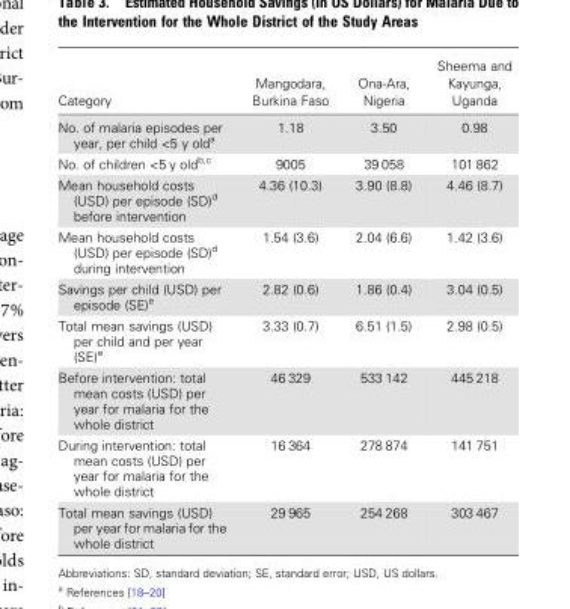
<table><thead><tr><td>Category</td><td>Mangodara, Burkina Faso</td><td>Ona-Ara, Nigeria</td><td>Sheema and Kayunga, Uganda</td></tr></thead><tbody><tr><td>No. of malaria episodes per year, per child &lt;5 y old<sup>a</sup></td><td>1.18</td><td>3.50</td><td>0.98</td></tr><tr><td>No. of children &lt;5 y old<sup>b,c</sup></td><td>9005</td><td>39 058</td><td>101 862</td></tr><tr><td>Mean household costs (USD) per episode (SD)<sup>d</sup> before intervention</td><td>4.36 (10.3)</td><td>3.90 (8.8)</td><td>4.46 (8.7)</td></tr><tr><td>Mean household costs (USD) per episode (SD)<sup>d</sup> during intervention</td><td>1.54 (3.6)</td><td>2.04 (6.6)</td><td>1.42 (3.6)</td></tr><tr><td>Savings per child (USD) per episode (SE)<sup>e</sup></td><td>2.82 (0.6)</td><td>1.86 (0.4)</td><td>3.04 (0.5)</td></tr><tr><td>Total mean savings (USD) per child and per year (SE)<sup>e</sup></td><td>3.33 (0.7)</td><td>6.51 (1.5)</td><td>2.98 (0.5)</td></tr><tr><td>Before intervention: total mean costs (USD) per year for malaria for the whole district</td><td>46 329</td><td>533 142</td><td>445 218</td></tr><tr><td>During intervention: total mean costs (USD) per year for malaria for the whole district</td><td>16 364</td><td>278 874</td><td>141 751</td></tr><tr><td>Total mean savings (USD) per year for malaria for the whole district</td><td>29 965</td><td>254 268</td><td>303 467</td></tr></tbody></table>